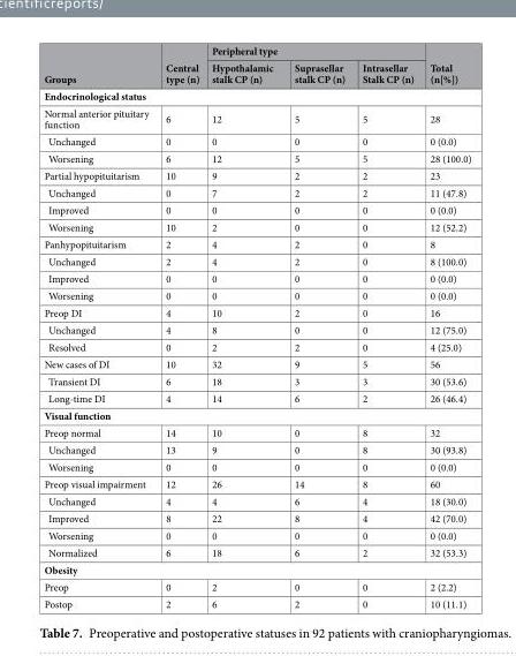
<table><thead><tr><td rowspan="2">Groups</td><td rowspan="2">Central type (n)</td><td colspan="3">Peripheral type</td><td rowspan="2">Total (n[%])</td></tr><tr><td>Hypothalamic stalk CP (n)</td><td>Suprasellar stalk CP (n)</td><td>Intrasellar Stalk CP (n)</td></tr></thead><tbody><tr><td colspan="6">Endocrinological status</td></tr><tr><td>Normal anterior pituitary function</td><td>6</td><td>12</td><td>5</td><td>5</td><td>28</td></tr><tr><td>Unchanged</td><td>0</td><td>0</td><td>0</td><td>0</td><td>0 (0.0)</td></tr><tr><td>Worsening</td><td>6</td><td>12</td><td>5</td><td>5</td><td>28 (100.0)</td></tr><tr><td>Partial hypopituitarism</td><td>10</td><td>9</td><td>2</td><td>2</td><td>23</td></tr><tr><td>Unchanged</td><td>0</td><td>7</td><td>2</td><td>2</td><td>11 (47.8)</td></tr><tr><td>Improved</td><td>0</td><td>0</td><td>0</td><td>0</td><td>0 (0.0)</td></tr><tr><td>Worsening</td><td>10</td><td>2</td><td>0</td><td>0</td><td>12 (52.2)</td></tr><tr><td>Panhypopituitarism</td><td>2</td><td>4</td><td>2</td><td>0</td><td>8</td></tr><tr><td>Unchanged</td><td>2</td><td>4</td><td>2</td><td>0</td><td>8 (100.0)</td></tr><tr><td>Improved</td><td>0</td><td>0</td><td>0</td><td>0</td><td>0 (0.0)</td></tr><tr><td>Worsening</td><td>0</td><td>0</td><td>0</td><td>0</td><td>0 (0.0)</td></tr><tr><td>Preop DI</td><td>4</td><td>10</td><td>2</td><td>0</td><td>16</td></tr><tr><td>Unchanged</td><td>4</td><td>8</td><td>0</td><td>0</td><td>12 (75.0)</td></tr><tr><td>Resolved</td><td>0</td><td>2</td><td>2</td><td>0</td><td>4 (25.0)</td></tr><tr><td>New cases of DI</td><td>10</td><td>32</td><td>9</td><td>5</td><td>56</td></tr><tr><td>Transient DI</td><td>6</td><td>18</td><td>3</td><td>3</td><td>30 (53.6)</td></tr><tr><td>Long-time DI</td><td>4</td><td>14</td><td>6</td><td>2</td><td>26 (46.4)</td></tr><tr><td colspan="6">Visual function</td></tr><tr><td>Preop normal</td><td>14</td><td>10</td><td>0</td><td>8</td><td>32</td></tr><tr><td>Unchanged</td><td>13</td><td>9</td><td>0</td><td>8</td><td>30 (93.8)</td></tr><tr><td>Worsening</td><td>0</td><td>0</td><td>0</td><td>0</td><td>0 (0.0)</td></tr><tr><td>Preop visual impairment</td><td>12</td><td>26</td><td>14</td><td>8</td><td>60</td></tr><tr><td>Unchanged</td><td>4</td><td>4</td><td>6</td><td>4</td><td>18 (30.0)</td></tr><tr><td>Improved</td><td>8</td><td>22</td><td>8</td><td>4</td><td>42 (70.0)</td></tr><tr><td>Worsening</td><td>0</td><td>0</td><td>0</td><td>0</td><td>0 (0.0)</td></tr><tr><td>Normalized</td><td>6</td><td>18</td><td>6</td><td>2</td><td>32 (53.3)</td></tr><tr><td colspan="6">Obesity</td></tr><tr><td>Preop</td><td>0</td><td>2</td><td>0</td><td>0</td><td>2 (2.2)</td></tr><tr><td>Postop</td><td>2</td><td>6</td><td>2</td><td>0</td><td>10 (11.1)</td></tr></tbody></table>